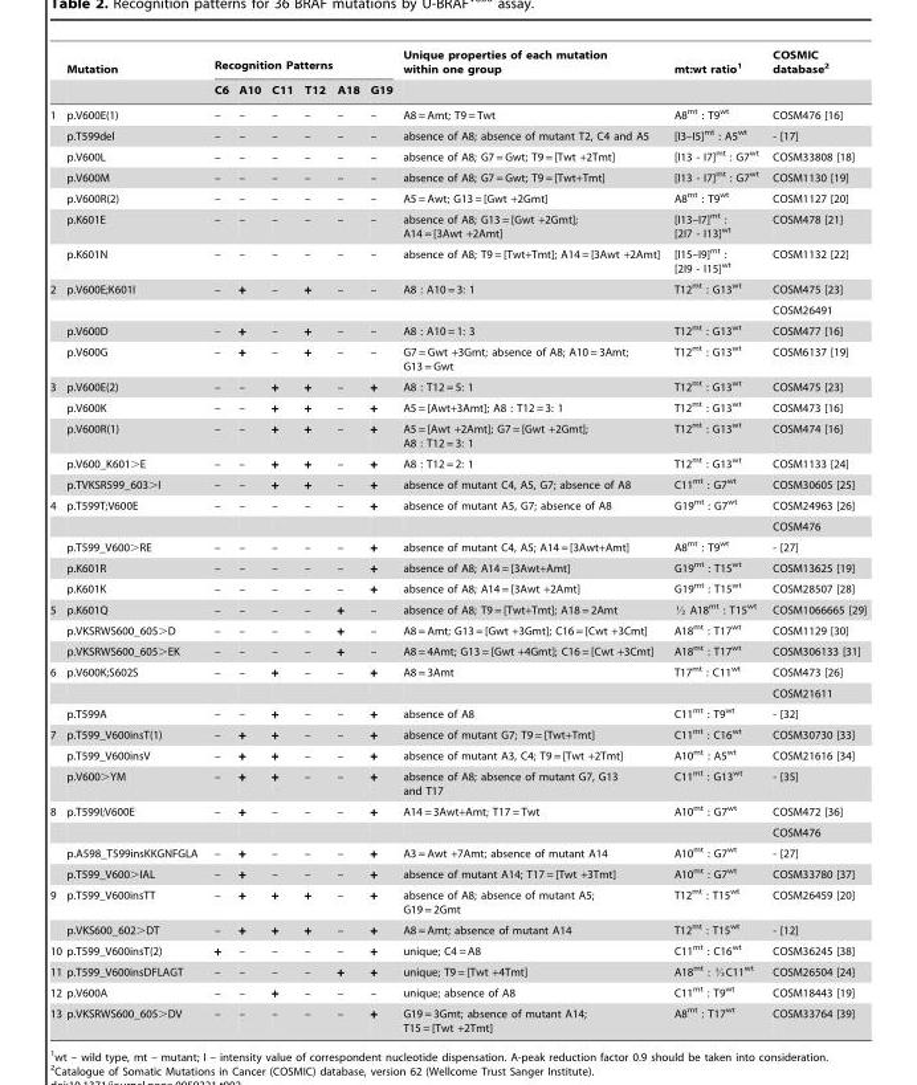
<table><thead><tr><td rowspan="2"></td><td rowspan="2">Mutation</td><td colspan="6">Recognition Patterns</td><td rowspan="2">Unique properties of each mutation within one group</td><td rowspan="2">mt:wt ratio<sup>1</sup></td><td rowspan="2">COSMIC database<sup>2</sup></td></tr><tr><td>C6</td><td>A10</td><td>C11</td><td>T12</td><td>A18</td><td>G19</td></tr></thead><tbody><tr><td rowspan="7">1</td><td>p.V600E(1)</td><td>–</td><td>–</td><td>–</td><td>–</td><td>–</td><td>–</td><td>A8 = Amt; T9 = Twt</td><td>A8<sup>mt</sup> : T9<sup>wt</sup></td><td>COSM476 [16]</td></tr><tr><td>p.T599del</td><td>–</td><td>–</td><td>–</td><td>–</td><td>–</td><td>–</td><td>absence of A8; absence of mutant T2, C4 and A5</td><td>[I3–I5]<sup>mt</sup> : A5<sup>wt</sup></td><td>- [17]</td></tr><tr><td>p.V600L</td><td>–</td><td>–</td><td>–</td><td>–</td><td>–</td><td>–</td><td>absence of A8; G7 = Gwt; T9 = [Twt +2Tmt]</td><td>[I13 - I7]<sup>mt</sup> : G7<sup>wt</sup></td><td>COSM33808 [18]</td></tr><tr><td>p.V600M</td><td>–</td><td>–</td><td>–</td><td>–</td><td>–</td><td>–</td><td>absence of A8; G7 = Gwt; T9 = [Twt+Tmt]</td><td>[I13 - I7]<sup>mt</sup> : G7<sup>wt</sup></td><td>COSM1130 [19]</td></tr><tr><td>p.V600R(2)</td><td>–</td><td>–</td><td>–</td><td>–</td><td>–</td><td>–</td><td>A5 = Awt; G13 = [Gwt +2Gmt]</td><td>A8<sup>mt</sup> : T9<sup>wt</sup></td><td>COSM1127 [20]</td></tr><tr><td>p.K601E</td><td>–</td><td>–</td><td>–</td><td>–</td><td>–</td><td>–</td><td>absence of A8; G13 = [Gwt +2Gmt]; A14 = [3Awt +2Amt]</td><td>[I13–I7]<sup>mt</sup> : [2I7 - I13]<sup>wt</sup></td><td>COSM478 [21]</td></tr><tr><td>p.K601N</td><td>–</td><td>–</td><td>–</td><td>–</td><td>–</td><td>–</td><td>absence of A8; T9 = [Twt+Tmt]; A14 = [3Awt +2Amt]</td><td>[I15–I9]<sup>mt</sup> : [2I9 - I15]<sup>wt</sup></td><td>COSM1132 [22]</td></tr><tr><td rowspan="4">2</td><td>p.V600E;K601I</td><td>–</td><td>+</td><td>–</td><td>+</td><td>–</td><td>–</td><td>A8 : A10 = 3: 1</td><td>T12<sup>mt</sup> : G13<sup>wt</sup></td><td>COSM475 [23]</td></tr><tr><td></td><td></td><td></td><td></td><td></td><td></td><td></td><td></td><td></td><td>COSM26491</td></tr><tr><td>p.V600D</td><td>–</td><td>+</td><td>–</td><td>+</td><td>–</td><td>–</td><td>A8 : A10 = 1: 3</td><td>T12<sup>mt</sup> : G13<sup>wt</sup></td><td>COSM477 [16]</td></tr><tr><td>p.V600G</td><td>–</td><td>+</td><td>–</td><td>+</td><td>–</td><td>–</td><td>G7 = Gwt +3Gmt; absence of A8; A10 = 3Amt; G13 = Gwt</td><td>T12<sup>mt</sup> : G13<sup>wt</sup></td><td>COSM6137 [19]</td></tr><tr><td rowspan="5">3</td><td>p.V600E(2)</td><td>–</td><td>–</td><td>+</td><td>+</td><td>–</td><td>+</td><td>A8 : T12 = 5: 1</td><td>T12<sup>mt</sup> : G13<sup>wt</sup></td><td>COSM475 [23]</td></tr><tr><td>p.V600K</td><td>–</td><td>–</td><td>+</td><td>+</td><td>–</td><td>+</td><td>A5 = [Awt+3Amt]; A8 : T12 = 3: 1</td><td>T12<sup>mt</sup> : G13<sup>wt</sup></td><td>COSM473 [16]</td></tr><tr><td>p.V600R(1)</td><td>–</td><td>–</td><td>+</td><td>+</td><td>–</td><td>+</td><td>A5 = [Awt +2Amt]; G7 = [Gwt +2Gmt]; A8 : T12 = 3: 1</td><td>T12<sup>mt</sup> : G13<sup>wt</sup></td><td>COSM474 [16]</td></tr><tr><td>p.V600_K601&gt;E</td><td>–</td><td>–</td><td>+</td><td>+</td><td>–</td><td>+</td><td>A8 : T12 = 2: 1</td><td>T12<sup>mt</sup> : G13<sup>wt</sup></td><td>COSM1133 [24]</td></tr><tr><td>p.TVKSR599_603&gt;I</td><td>–</td><td>–</td><td>+</td><td>+</td><td>–</td><td>+</td><td>absence of mutant C4, A5, G7; absence of A8</td><td>C11<sup>mt</sup> : G7<sup>wt</sup></td><td>COSM30605 [25]</td></tr><tr><td rowspan="5">4</td><td>p.T599T;V600E</td><td>–</td><td>–</td><td>–</td><td>–</td><td>–</td><td>+</td><td>absence of mutant A5, G7; absence of A8</td><td>G19<sup>mt</sup> : G7<sup>wt</sup></td><td>COSM24963 [26]</td></tr><tr><td></td><td></td><td></td><td></td><td></td><td></td><td></td><td></td><td></td><td>COSM476</td></tr><tr><td>p.T599_V600&gt;RE</td><td>–</td><td>–</td><td>–</td><td>–</td><td>–</td><td>+</td><td>absence of mutant C4, A5; A14 = [3Awt+Amt]</td><td>A8<sup>mt</sup> : T9<sup>wt</sup></td><td>- [27]</td></tr><tr><td>p.K601R</td><td>–</td><td>–</td><td>–</td><td>–</td><td>–</td><td>+</td><td>absence of A8; A14 = [3Awt+Amt]</td><td>G19<sup>mt</sup> : T15<sup>wt</sup></td><td>COSM13625 [19]</td></tr><tr><td>p.K601K</td><td>–</td><td>–</td><td>–</td><td>–</td><td>–</td><td>+</td><td>absence of A8; A14 = [3Awt +2Amt]</td><td>G19<sup>mt</sup> : T15<sup>wt</sup></td><td>COSM28507 [28]</td></tr><tr><td rowspan="3">5</td><td>p.K601Q</td><td>–</td><td>–</td><td>–</td><td>–</td><td>+</td><td>–</td><td>absence of A8; T9 = [Twt+Tmt]; A18 = 2Amt</td><td>K A18mt : T15wt</td><td>COSM1066665 [29]</td></tr><tr><td>p.VKSRWS600_605&gt;D</td><td>–</td><td>–</td><td>–</td><td>–</td><td>+</td><td>–</td><td>A8 = Amt; G13 = [Gwt +3Gmt]; C16 = [Cwt +3Cmt]</td><td>A18<sup>mt</sup> : T17<sup>wt</sup></td><td>COSM1129 [30]</td></tr><tr><td>p.VKSRWS600_605&gt;EK</td><td>–</td><td>–</td><td>–</td><td>–</td><td>+</td><td>–</td><td>A8 = 4Amt; G13 = [Gwt +4Gmt]; C16 = [Cwt +3Cmt]</td><td>A18<sup>mt</sup> : T17<sup>wt</sup></td><td>COSM306133 [31]</td></tr><tr><td rowspan="3">6</td><td>p.V600K;S602S</td><td>–</td><td>–</td><td>+</td><td>–</td><td>–</td><td>+</td><td>A8 = 3Amt</td><td>T17<sup>mt</sup> : C11<sup>wt</sup></td><td>COSM473 [26]</td></tr><tr><td></td><td></td><td></td><td></td><td></td><td></td><td></td><td></td><td></td><td>COSM21611</td></tr><tr><td>p.T599A</td><td>–</td><td>–</td><td>+</td><td>–</td><td>–</td><td>+</td><td>absence of A8</td><td>C11<sup>mt</sup> : T9<sup>wt</sup></td><td>- [32]</td></tr><tr><td rowspan="3">7</td><td>p.T599_V600insT(1)</td><td>–</td><td>+</td><td>+</td><td>–</td><td>–</td><td>+</td><td>absence of mutant G7; T9 = [Twt+Tmt]</td><td>C11<sup>mt</sup> : C16<sup>wt</sup></td><td>COSM30730 [33]</td></tr><tr><td>p.T599_V600insV</td><td>–</td><td>+</td><td>+</td><td>–</td><td>–</td><td>+</td><td>absence of mutant A3, C4; T9 = [Twt +2Tmt]</td><td>A10<sup>mt</sup> : A5<sup>wt</sup></td><td>COSM21616 [34]</td></tr><tr><td>p.V600&gt;YM</td><td>–</td><td>+</td><td>+</td><td>–</td><td>–</td><td>+</td><td>absence of A8; absence of mutant G7, G13 and T17</td><td>C11<sup>mt</sup> : G13<sup>wt</sup></td><td>- [35]</td></tr><tr><td rowspan="4">8</td><td>p.T599I;V600E</td><td>–</td><td>+</td><td>–</td><td>–</td><td>–</td><td>+</td><td>A14 = 3Awt+Amt; T17 = Twt</td><td>A10<sup>mt</sup> : G7<sup>wt</sup></td><td>COSM472 [36]</td></tr><tr><td></td><td></td><td></td><td></td><td></td><td></td><td></td><td></td><td></td><td>COSM476</td></tr><tr><td>p.A598_T599insKKGNFGLA</td><td>–</td><td>+</td><td>–</td><td>–</td><td>–</td><td>+</td><td>A3 = Awt +7Amt; absence of mutant A14</td><td>A10<sup>mt</sup> : G7<sup>wt</sup></td><td>- [27]</td></tr><tr><td>p.T599_V600&gt;IAL</td><td>–</td><td>+</td><td>–</td><td>–</td><td>–</td><td>+</td><td>absence of mutant A14; T17 = [Twt +3Tmt]</td><td>A10<sup>mt</sup> : G7<sup>wt</sup></td><td>COSM33780 [37]</td></tr><tr><td rowspan="2">9</td><td>p.T599_V600insTT</td><td>–</td><td>+</td><td>+</td><td>+</td><td>–</td><td>+</td><td>absence of A8; absence of mutant A5; G19 = 2Gmt</td><td>T12<sup>mt</sup> : T15<sup>wt</sup></td><td>COSM26459 [20]</td></tr><tr><td>p.VKS600_602&gt;DT</td><td>–</td><td>+</td><td>+</td><td>+</td><td>–</td><td>+</td><td>A8 = Amt; absence of mutant A14</td><td>T12<sup>mt</sup> : T15<sup>wt</sup></td><td>- [12]</td></tr><tr><td>10</td><td>p.T599_V600insT(2)</td><td>+</td><td>–</td><td>–</td><td>–</td><td>–</td><td>+</td><td>unique; C4 = A8</td><td>C11<sup>mt</sup> : C16<sup>wt</sup></td><td>COSM36245 [38]</td></tr><tr><td>11</td><td>p.T599_V600insDFLAGT</td><td>–</td><td>–</td><td>–</td><td>–</td><td>+</td><td>+</td><td>unique; T9 = [Twt +4Tmt]</td><td>A18mt : MC11wt</td><td>COSM26504 [24]</td></tr><tr><td>12</td><td>p.V600A</td><td>–</td><td>–</td><td>+</td><td>–</td><td>–</td><td>–</td><td>unique; absence of A8</td><td>C11<sup>mt</sup> : T9<sup>wt</sup></td><td>COSM18443 [19]</td></tr><tr><td>13</td><td>p.VKSRWS600_605&gt;DV</td><td>–</td><td>–</td><td>–</td><td>–</td><td>–</td><td>+</td><td>G19 = 3Gmt; absence of mutant A14; T15 = [Twt +2Tmt]</td><td>A8<sup>mt</sup> : T17<sup>wt</sup></td><td>COSM33764 [39]</td></tr></tbody></table>